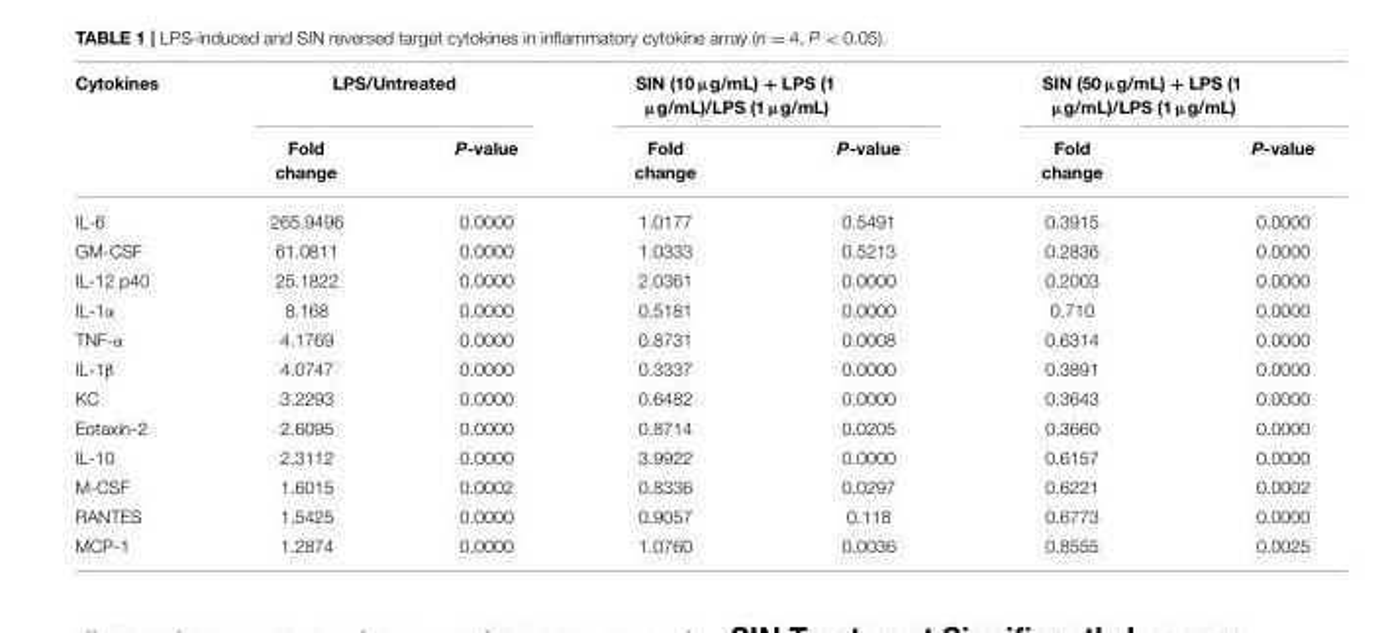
<table><thead><tr><td rowspan="2">Cytokines</td><td colspan="2">LPS/Untreated</td><td colspan="2">SIN (10 µg/mL) + LPS (1 µg/mL)/LPS (1 µg/mL)</td><td colspan="2">SIN (50 µg/mL) + LPS (1 µg/mL)/LPS (1 µg/mL)</td></tr><tr><td>Fold change</td><td>P-value</td><td>Fold change</td><td>P-value</td><td>Fold change</td><td>P-value</td></tr></thead><tbody><tr><td>IL-6</td><td>265.9496</td><td>0.0000</td><td>1.0177</td><td>0.5491</td><td>0.3915</td><td>0.0000</td></tr><tr><td>GM-CSF</td><td>61.0811</td><td>0.0000</td><td>1.0333</td><td>0.5213</td><td>0.2836</td><td>0.0000</td></tr><tr><td>IL-12 p40</td><td>25.1822</td><td>0.0000</td><td>2.0361</td><td>0.0000</td><td>0.2003</td><td>0.0000</td></tr><tr><td>IL-1α</td><td>8.168</td><td>0.0000</td><td>0.5181</td><td>0.0000</td><td>0.710</td><td>0.0000</td></tr><tr><td>TNF-α</td><td>4.1769</td><td>0.0000</td><td>0.8731</td><td>0.0008</td><td>0.6314</td><td>0.0000</td></tr><tr><td>IL-1β</td><td>4.0747</td><td>0.0000</td><td>0.3337</td><td>0.0000</td><td>0.3891</td><td>0.0000</td></tr><tr><td>KC</td><td>3.2293</td><td>0.0000</td><td>0.6482</td><td>0.0000</td><td>0.3643</td><td>0.0000</td></tr><tr><td>Eotaxin-2</td><td>2.6095</td><td>0.0000</td><td>0.8714</td><td>0.0205</td><td>0.3660</td><td>0.0000</td></tr><tr><td>IL-10</td><td>2.3112</td><td>0.0000</td><td>3.9922</td><td>0.0000</td><td>0.6157</td><td>0.0000</td></tr><tr><td>M-CSF</td><td>1.6015</td><td>0.0002</td><td>0.8336</td><td>0.0297</td><td>0.6221</td><td>0.0002</td></tr><tr><td>RANTES</td><td>1.5425</td><td>0.0000</td><td>0.9057</td><td>0.118</td><td>0.6773</td><td>0.0000</td></tr><tr><td>MCP-1</td><td>1.2874</td><td>0.0000</td><td>1.0760</td><td>0.0036</td><td>0.8555</td><td>0.0025</td></tr></tbody></table>